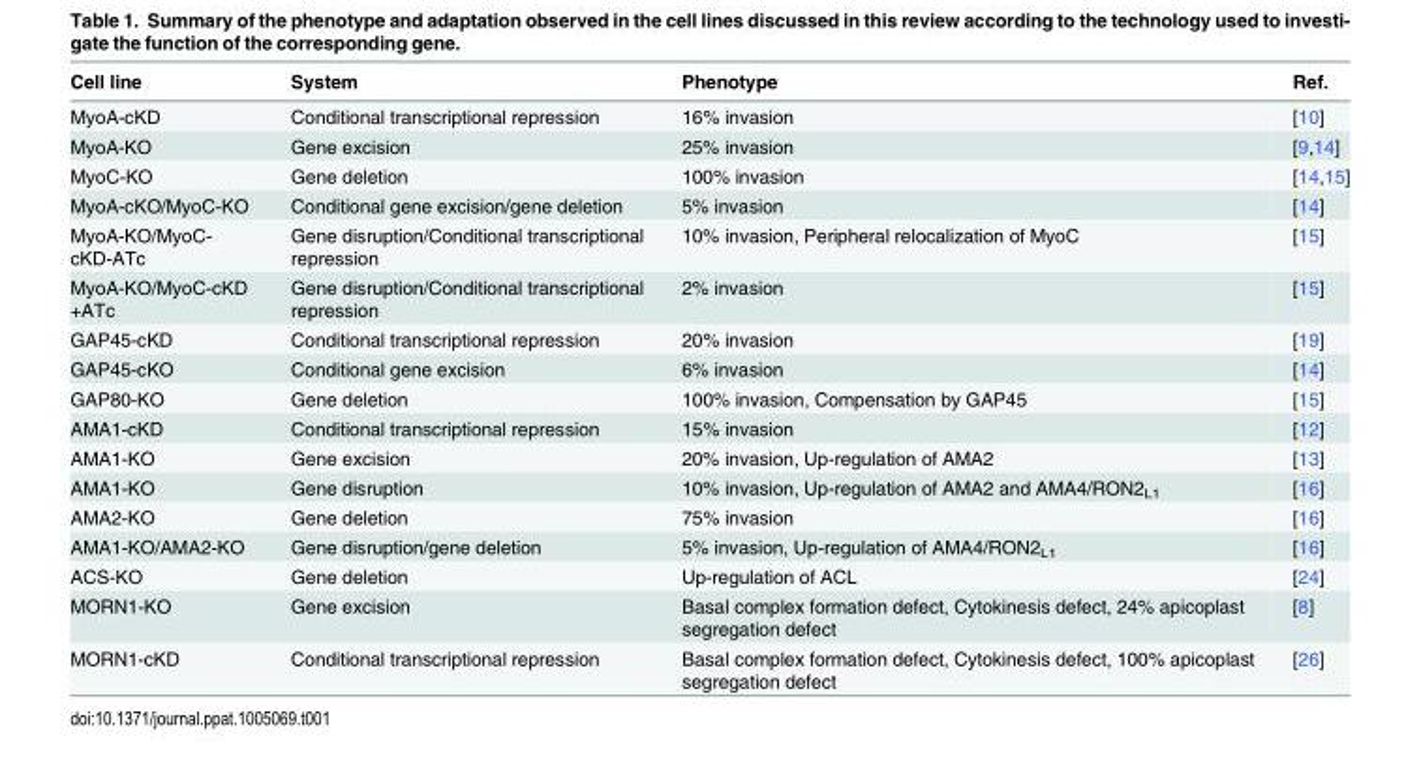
<table><thead><tr><td>Cell line</td><td>System</td><td>Phenotype</td><td>Ref.</td></tr></thead><tbody><tr><td>MyoA-cKD</td><td>Conditional transcriptional repression</td><td>16% invasion</td><td>[10]</td></tr><tr><td>MyoA-KO</td><td>Gene excision</td><td>25% invasion</td><td>[9,14]</td></tr><tr><td>MyoC-KO</td><td>Gene deletion</td><td>100% invasion</td><td>[14,15]</td></tr><tr><td>MyoA-cKO/MyoC-KO</td><td>Conditional gene excision/gene deletion</td><td>5% invasion</td><td>[14]</td></tr><tr><td>MyoA-KO/MyoC- cKD-ATc</td><td>Gene disruption/Conditional transcriptional repression</td><td>10% invasion, Peripheral relocalization of MyoC</td><td>[15]</td></tr><tr><td>MyoA-KO/MyoC-cKD +ATc</td><td>Gene disruption/Conditional transcriptional repression</td><td>2% invasion</td><td>[15]</td></tr><tr><td>GAP45-cKD</td><td>Conditional transcriptional repression</td><td>20% invasion</td><td>[19]</td></tr><tr><td>GAP45-cKO</td><td>Conditional gene excision</td><td>6% invasion</td><td>[14]</td></tr><tr><td>GAP80-KO</td><td>Gene deletion</td><td>100% invasion, Compensation by GAP45</td><td>[15]</td></tr><tr><td>AMA1-cKD</td><td>Conditional transcriptional repression</td><td>15% invasion</td><td>[12]</td></tr><tr><td>AMA1-KO</td><td>Gene excision</td><td>20% invasion, Up-regulation of AMA2</td><td>[13]</td></tr><tr><td>AMA1-KO</td><td>Gene disruption</td><td>10% invasion, Up-regulation of AMA2 and AMA4/RON2<sub>L1</sub></td><td>[16]</td></tr><tr><td>AMA2-KO</td><td>Gene deletion</td><td>75% invasion</td><td>[16]</td></tr><tr><td>AMA1-KO/AMA2-KO</td><td>Gene disruption/gene deletion</td><td>5% invasion, Up-regulation of AMA4/RON2<sub>L1</sub></td><td>[16]</td></tr><tr><td>ACS-KO</td><td>Gene deletion</td><td>Up-regulation of ACL</td><td>[24]</td></tr><tr><td>MORN1-KO</td><td>Gene excision</td><td>Basal complex formation defect, Cytokinesis defect, 24% apicoplast segregation defect</td><td>[8]</td></tr><tr><td>MORN1-cKD</td><td>Conditional transcriptional repression</td><td>Basal complex formation defect, Cytokinesis defect, 100% apicoplast segregation defect</td><td>[26]</td></tr></tbody></table>